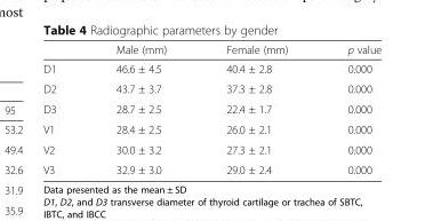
<table><thead><tr><td></td><td>Male (mm)</td><td>Female (mm)</td><td>p value</td></tr></thead><tbody><tr><td>D1</td><td>46.6 ± 4.5</td><td>40.4 ± 2.8</td><td>0.000</td></tr><tr><td>D2</td><td>43.7 ± 3.7</td><td>37.3 ± 2.8</td><td>0.000</td></tr><tr><td>D3</td><td>28.7 ± 2.5</td><td>22.4 ± 1.7</td><td>0.000</td></tr><tr><td>V1</td><td>28.4 ± 2.5</td><td>26.0 ± 2.1</td><td>0.000</td></tr><tr><td>V2</td><td>30.0 ± 3.2</td><td>27.3 ± 2.1</td><td>0.000</td></tr><tr><td>V3</td><td>32.9 ± 3.0</td><td>29.0 ± 2.4</td><td>0.000</td></tr></tbody></table>